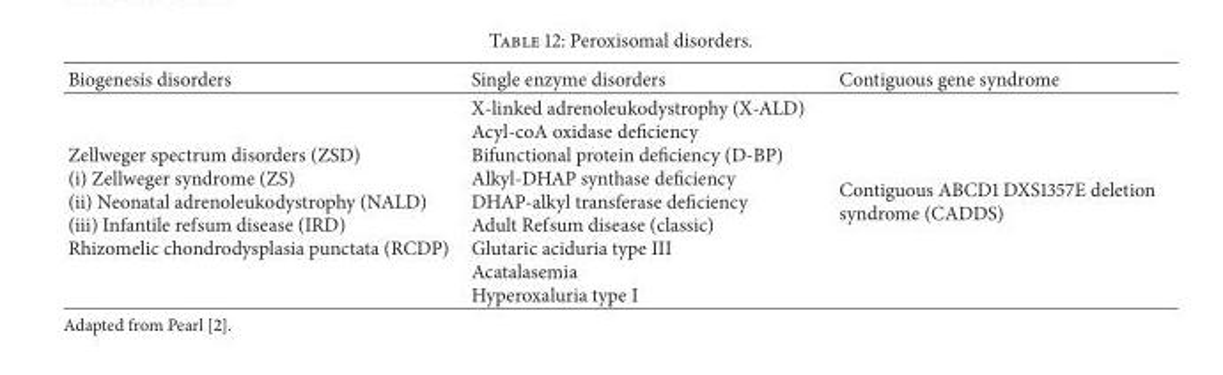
<table><thead><tr><td>Biogenesis disorders</td><td>Single enzyme disorders</td><td>Contiguous gene syndrome</td></tr></thead><tbody><tr><td>Zellweger spectrum disorders (ZSD) (i) Zellweger syndrome (ZS) (ii) Neonatal adrenoleukodystrophy (NALD) (iii) Infantile refsum disease (IRD) Rhizomelic chondrodysplasia punctata (RCDP)</td><td>X-linked adrenoleukodystrophy (X-ALD) Acyl-coA oxidase deficiency Bifunctional protein deficiency (D-BP) Alkyl-DHAP synthase deficiency DHAP-alkyl transferase deficiency Adult Refsum disease (classic) Glutaric aciduria type III Acatalasemia Hyperoxaluria type I</td><td>Contiguous ABCD1 DXS1357E deletion syndrome (CADDS)</td></tr></tbody></table>